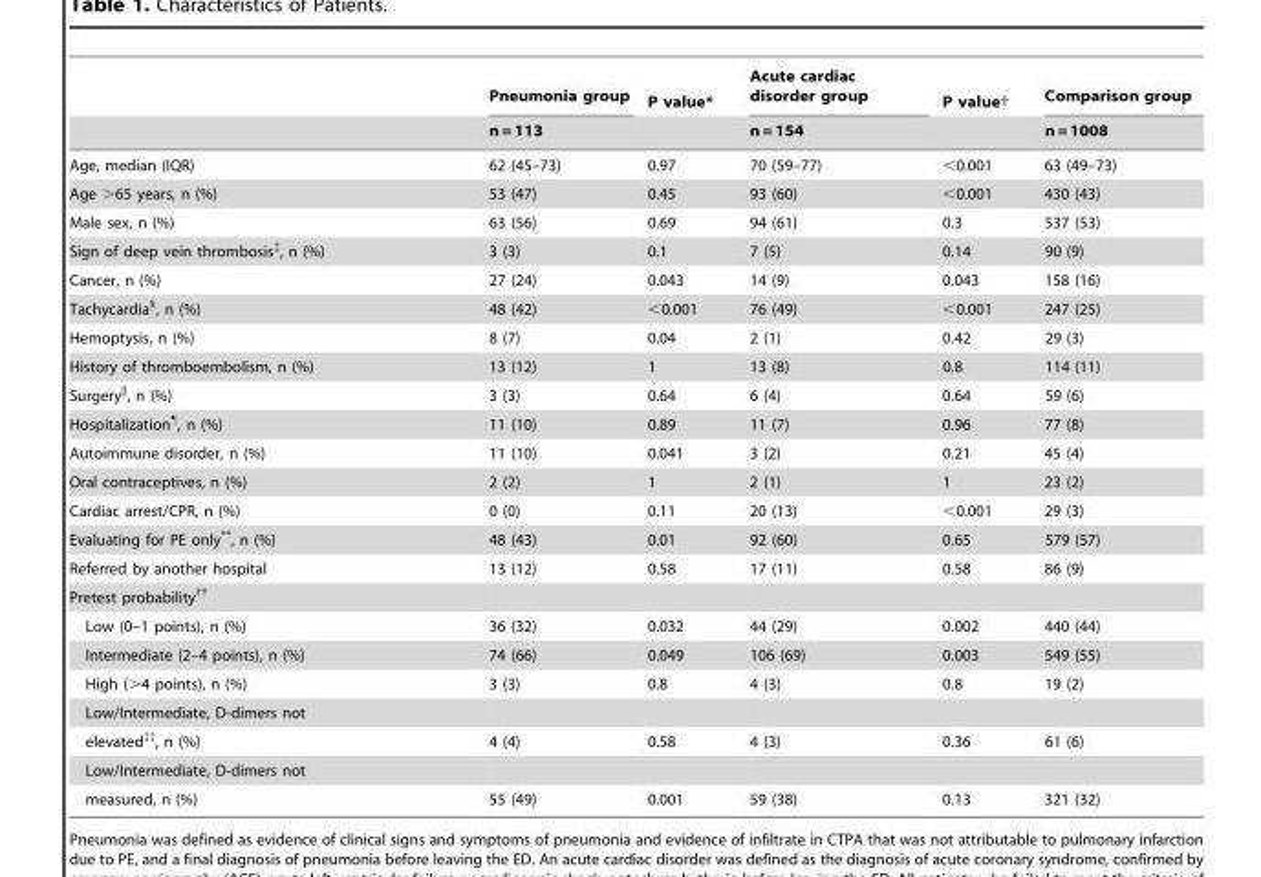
<table><thead><tr><td rowspan="2"></td><td rowspan="2">Pneumonia group n = 113</td><td rowspan="2">P value*</td><td rowspan="2">Acute cardiac disorder group n = 154</td><td rowspan="2">P value†</td><td rowspan="2">Comparison group n = 1008</td></tr><tr></tr></thead><tbody><tr><td>Age, median (IQR)</td><td>62 (45–73)</td><td>0.97</td><td>70 (59–77)</td><td>&lt;0.001</td><td>63 (49–73)</td></tr><tr><td>Age &gt;65 years, n (%)</td><td>53 (47)</td><td>0.45</td><td>93 (60)</td><td>&lt;0.001</td><td>430 (43)</td></tr><tr><td>Male sex, n (%)</td><td>63 (56)</td><td>0.69</td><td>94 (61)</td><td>0.3</td><td>537 (53)</td></tr><tr><td>Sign of deep vein thrombosis‡, n (%)</td><td>3 (3)</td><td>0.1</td><td>7 (5)</td><td>0.14</td><td>90 (9)</td></tr><tr><td>Cancer, n (%)</td><td>27 (24)</td><td>0.043</td><td>14 (9)</td><td>0.043</td><td>158 (16)</td></tr><tr><td>Tachycardia§, n (%)</td><td>48 (42)</td><td>&lt;0.001</td><td>76 (49)</td><td>&lt;0.001</td><td>247 (25)</td></tr><tr><td>Hemoptysis, n (%)</td><td>8 (7)</td><td>0.04</td><td>2 (1)</td><td>0.42</td><td>29 (3)</td></tr><tr><td>History of thromboembolism, n (%)</td><td>13 (12)</td><td>1</td><td>13 (8)</td><td>0.8</td><td>114 (11)</td></tr><tr><td>Surgery||, n (%)</td><td>3 (3)</td><td>0.64</td><td>6 (4)</td><td>0.64</td><td>59 (6)</td></tr><tr><td>Hospitalization¶, n (%)</td><td>11 (10)</td><td>0.89</td><td>11 (7)</td><td>0.96</td><td>77 (8)</td></tr><tr><td>Autoimmune disorder, n (%)</td><td>11 (10)</td><td>0.041</td><td>3 (2)</td><td>0.21</td><td>45 (4)</td></tr><tr><td>Oral contraceptives, n (%)</td><td>2 (2)</td><td>1</td><td>2 (1)</td><td>1</td><td>23 (2)</td></tr><tr><td>Cardiac arrest/CPR, n (%)</td><td>0 (0)</td><td>0.11</td><td>20 (13)</td><td>&lt;0.001</td><td>29 (3)</td></tr><tr><td>Evaluating for PE only**, n (%)</td><td>48 (43)</td><td>0.01</td><td>92 (60)</td><td>0.65</td><td>579 (57)</td></tr><tr><td>Referred by another hospital</td><td>13 (12)</td><td>0.58</td><td>17 (11)</td><td>0.58</td><td>86 (9)</td></tr><tr><td colspan="6">Pretest probability††</td></tr><tr><td>Low (0–1 points), n (%)</td><td>36 (32)</td><td>0.032</td><td>44 (29)</td><td>0.002</td><td>440 (44)</td></tr><tr><td>Intermediate (2–4 points), n (%)</td><td>74 (66)</td><td>0.049</td><td>106 (69)</td><td>0.003</td><td>549 (55)</td></tr><tr><td>High (&gt;4 points), n (%)</td><td>3 (3)</td><td>0.8</td><td>4 (3)</td><td>0.8</td><td>19 (2)</td></tr><tr><td colspan="6">Low/Intermediate, D-dimers not</td></tr><tr><td>elevated‡‡, n (%)</td><td>4 (4)</td><td>0.58</td><td>4 (3)</td><td>0.36</td><td>61 (6)</td></tr><tr><td colspan="6">Low/Intermediate, D-dimers not</td></tr><tr><td>measured, n (%)</td><td>55 (49)</td><td>0.001</td><td>59 (38)</td><td>0.13</td><td>321 (32)</td></tr></tbody></table>